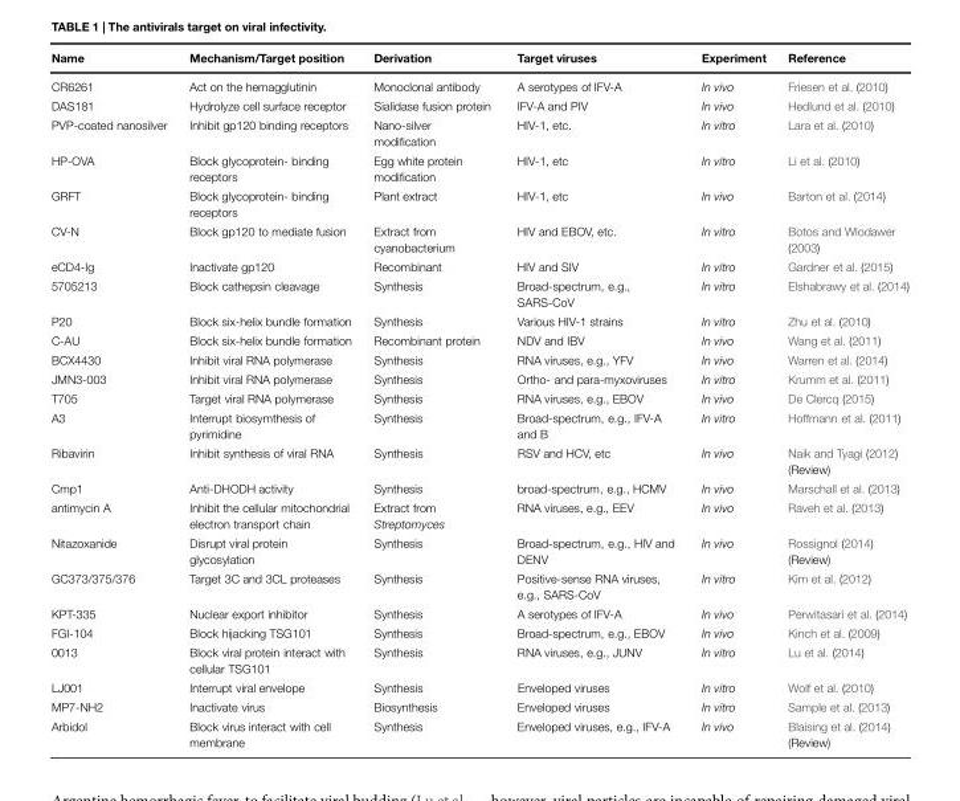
<table><thead><tr><td>Name</td><td>Mechanism/Target position</td><td>Derivation</td><td>Target viruses</td><td>Experiment</td><td>Reference</td></tr></thead><tbody><tr><td>CR6261</td><td>Act on the hemagglutinin</td><td>Monoclonal antibody</td><td>A serotypes of IFV-A</td><td>In vivo</td><td>Friesen et al. (2010)</td></tr><tr><td>DAS181</td><td>Hydrolyze cell surface receptor</td><td>Sialidase fusion protein</td><td>IFV-A and PIV</td><td>In vivo</td><td>Hedlund et al. (2010)</td></tr><tr><td>PVP-coated nanosilver</td><td>Inhibit gp120 binding receptors</td><td>Nano-silver modification</td><td>HIV-1, etc.</td><td>In vitro</td><td>Lara et al. (2010)</td></tr><tr><td>HP-OVA</td><td>Block glycoprotein- binding receptors</td><td>Egg white protein modification</td><td>HIV-1, etc</td><td>In vitro</td><td>Li et al. (2010)</td></tr><tr><td>GRFT</td><td>Block glycoprotein- binding receptors</td><td>Plant extract</td><td>HIV-1, etc</td><td>In vivo</td><td>Barton et al. (2014)</td></tr><tr><td>CV-N</td><td>Block gp120 to mediate fusion</td><td>Extract from cyanobacterium</td><td>HIV and EBOV, etc.</td><td>In vitro</td><td>Botos and Wlodawer (2003)</td></tr><tr><td>eCD4-Ig</td><td>Inactivate gp120</td><td>Recombinant</td><td>HIV and SIV</td><td>In vitro</td><td>Gardner et al. (2015)</td></tr><tr><td>5705213</td><td>Block cathepsin cleavage</td><td>Synthesis</td><td>Broad-spectrum, e.g., SARS-CoV</td><td>In vitro</td><td>Elshabrawy et al. (2014)</td></tr><tr><td>P20</td><td>Block six-helix bundle formation</td><td>Synthesis</td><td>Various HIV-1 strains</td><td>In vitro</td><td>Zhu et al. (2010)</td></tr><tr><td>C-AU</td><td>Block six-helix bundle formation</td><td>Recombinant protein</td><td>NDV and IBV</td><td>In vivo</td><td>Wang et al. (2011)</td></tr><tr><td>BCX4430</td><td>Inhibit viral RNA polymerase</td><td>Synthesis</td><td>RNA viruses, e.g., YFV</td><td>In vivo</td><td>Warren et al. (2014)</td></tr><tr><td>JMN3-003</td><td>Inhibit viral RNA polymerase</td><td>Synthesis</td><td>Ortho- and para-myxoviruses</td><td>In vitro</td><td>Krumm et al. (2011)</td></tr><tr><td>T705</td><td>Target viral RNA polymerase</td><td>Synthesis</td><td>RNA viruses, e.g., EBOV</td><td>In vivo</td><td>De Clercq (2015)</td></tr><tr><td>A3</td><td>Interrupt biosymthesis of pyrimidine</td><td>Synthesis</td><td>Broad-spectrum, e.g., IFV-A and B</td><td>In vitro</td><td>Hoffmann et al. (2011)</td></tr><tr><td>Ribavirin</td><td>Inhibit synthesis of viral RNA</td><td>Synthesis</td><td>RSV and HCV, etc</td><td>In vivo</td><td>Naik and Tyagi (2012) (Review)</td></tr><tr><td>Cmp1</td><td>Anti-DHODH activity</td><td>Synthesis</td><td>broad-spectrum, e.g., HCMV</td><td>In vivo</td><td>Marschall et al. (2013)</td></tr><tr><td>antimycin A</td><td>Inhibit the cellular mitochondrial electron transport chain</td><td>Extract from Streptomyces</td><td>RNA viruses, e.g., EEV</td><td>In vivo</td><td>Raveh et al. (2013)</td></tr><tr><td>Nitazoxanide</td><td>Disrupt viral protein glycosylation</td><td>Synthesis</td><td>Broad-spectrum, e.g., HIV and DENV</td><td>In vivo</td><td>Rossignol (2014) (Review)</td></tr><tr><td>GC373/375/376</td><td>Target 3C and 3CL proteases</td><td>Synthesis</td><td>Positive-sense RNA viruses, e.g., SARS-CoV</td><td>In vitro</td><td>Kim et al. (2012)</td></tr><tr><td>KPT-335</td><td>Nuclear export inhibitor</td><td>Synthesis</td><td>A serotypes of IFV-A</td><td>In vivo</td><td>Perwitasari et al. (2014)</td></tr><tr><td>FGI-104</td><td>Block hijacking TSG101</td><td>Synthesis</td><td>Broad-spectrum, e.g., EBOV</td><td>In vivo</td><td>Kinch et al. (2009)</td></tr><tr><td>0013</td><td>Block viral protein interact with cellular TSG101</td><td>Synthesis</td><td>RNA viruses, e.g., JUNV</td><td>In vitro</td><td>Lu et al. (2014)</td></tr><tr><td>LJ001</td><td>Interrupt viral envelope</td><td>Synthesis</td><td>Enveloped viruses</td><td>In vitro</td><td>Wolf et al. (2010)</td></tr><tr><td>MP7-NH2</td><td>Inactivate virus</td><td>Biosynthesis</td><td>Enveloped viruses</td><td>In vitro</td><td>Sample et al. (2013)</td></tr><tr><td>Arbidol</td><td>Block virus interact with cell membrane</td><td>Synthesis</td><td>Enveloped viruses, e.g., IFV-A</td><td>In vivo</td><td>Blaising et al. (2014) (Review)</td></tr></tbody></table>